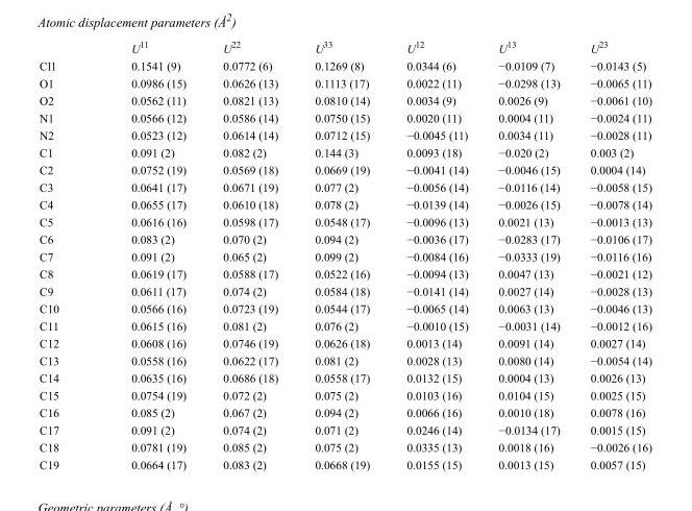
<table><thead><tr><td></td><td>U<sup>11</sup></td><td>U<sup>22</sup></td><td>U<sup>33</sup></td><td>U<sup>12</sup></td><td>U<sup>13</sup></td><td>U<sup>23</sup></td></tr></thead><tbody><tr><td>Cl1</td><td>0.1541 (9)</td><td>0.0772 (6)</td><td>0.1269 (8)</td><td>0.0344 (6)</td><td>−0.0109 (7)</td><td>−0.0143 (5)</td></tr><tr><td>O1</td><td>0.0986 (15)</td><td>0.0626 (13)</td><td>0.1113 (17)</td><td>0.0022 (11)</td><td>−0.0298 (13)</td><td>−0.0065 (11)</td></tr><tr><td>O2</td><td>0.0562 (11)</td><td>0.0821 (13)</td><td>0.0810 (14)</td><td>0.0034 (9)</td><td>0.0026 (9)</td><td>−0.0061 (10)</td></tr><tr><td>N1</td><td>0.0566 (12)</td><td>0.0586 (14)</td><td>0.0750 (15)</td><td>0.0020 (11)</td><td>0.0004 (11)</td><td>−0.0024 (11)</td></tr><tr><td>N2</td><td>0.0523 (12)</td><td>0.0614 (14)</td><td>0.0712 (15)</td><td>−0.0045 (11)</td><td>0.0034 (11)</td><td>−0.0028 (11)</td></tr><tr><td>C1</td><td>0.091 (2)</td><td>0.082 (2)</td><td>0.144 (3)</td><td>0.0093 (18)</td><td>−0.020 (2)</td><td>0.003 (2)</td></tr><tr><td>C2</td><td>0.0752 (19)</td><td>0.0569 (18)</td><td>0.0669 (19)</td><td>−0.0041 (14)</td><td>−0.0046 (15)</td><td>0.0004 (14)</td></tr><tr><td>C3</td><td>0.0641 (17)</td><td>0.0671 (19)</td><td>0.077 (2)</td><td>−0.0056 (14)</td><td>−0.0116 (14)</td><td>−0.0058 (15)</td></tr><tr><td>C4</td><td>0.0655 (17)</td><td>0.0610 (18)</td><td>0.078 (2)</td><td>−0.0139 (14)</td><td>−0.0026 (15)</td><td>−0.0078 (14)</td></tr><tr><td>C5</td><td>0.0616 (16)</td><td>0.0598 (17)</td><td>0.0548 (17)</td><td>−0.0096 (13)</td><td>0.0021 (13)</td><td>−0.0013 (13)</td></tr><tr><td>C6</td><td>0.083 (2)</td><td>0.070 (2)</td><td>0.094 (2)</td><td>−0.0036 (17)</td><td>−0.0283 (17)</td><td>−0.0106 (17)</td></tr><tr><td>C7</td><td>0.091 (2)</td><td>0.065 (2)</td><td>0.099 (2)</td><td>−0.0084 (16)</td><td>−0.0333 (19)</td><td>−0.0116 (16)</td></tr><tr><td>C8</td><td>0.0619 (17)</td><td>0.0588 (17)</td><td>0.0522 (16)</td><td>−0.0094 (13)</td><td>0.0047 (13)</td><td>−0.0021 (12)</td></tr><tr><td>C9</td><td>0.0611 (17)</td><td>0.074 (2)</td><td>0.0584 (18)</td><td>−0.0141 (14)</td><td>0.0027 (14)</td><td>−0.0028 (13)</td></tr><tr><td>C10</td><td>0.0566 (16)</td><td>0.0723 (19)</td><td>0.0544 (17)</td><td>−0.0065 (14)</td><td>0.0063 (13)</td><td>−0.0046 (13)</td></tr><tr><td>C11</td><td>0.0615 (16)</td><td>0.081 (2)</td><td>0.076 (2)</td><td>−0.0010 (15)</td><td>−0.0031 (14)</td><td>−0.0012 (16)</td></tr><tr><td>C12</td><td>0.0608 (16)</td><td>0.0746 (19)</td><td>0.0626 (18)</td><td>0.0013 (14)</td><td>0.0091 (14)</td><td>0.0027 (14)</td></tr><tr><td>C13</td><td>0.0558 (16)</td><td>0.0622 (17)</td><td>0.081 (2)</td><td>0.0028 (13)</td><td>0.0080 (14)</td><td>−0.0054 (14)</td></tr><tr><td>C14</td><td>0.0635 (16)</td><td>0.0686 (18)</td><td>0.0558 (17)</td><td>0.0132 (15)</td><td>0.0004 (13)</td><td>0.0026 (13)</td></tr><tr><td>C15</td><td>0.0754 (19)</td><td>0.072 (2)</td><td>0.075 (2)</td><td>0.0103 (16)</td><td>0.0104 (15)</td><td>0.0025 (15)</td></tr><tr><td>C16</td><td>0.085 (2)</td><td>0.067 (2)</td><td>0.094 (2)</td><td>0.0066 (16)</td><td>0.0010 (18)</td><td>0.0078 (16)</td></tr><tr><td>C17</td><td>0.091 (2)</td><td>0.074 (2)</td><td>0.071 (2)</td><td>0.0246 (14)</td><td>−0.0134 (17)</td><td>0.0015 (15)</td></tr><tr><td>C18</td><td>0.0781 (19)</td><td>0.085 (2)</td><td>0.075 (2)</td><td>0.0335 (13)</td><td>0.0018 (16)</td><td>−0.0026 (16)</td></tr><tr><td>C19</td><td>0.0664 (17)</td><td>0.083 (2)</td><td>0.0668 (19)</td><td>0.0155 (15)</td><td>0.0013 (15)</td><td>0.0057 (15)</td></tr></tbody></table>